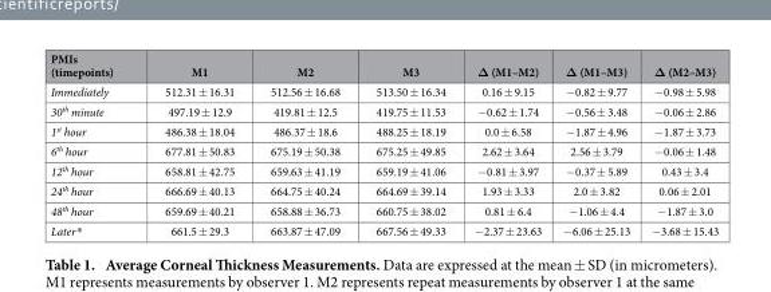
<table><thead><tr><td>PMIs (timepoints)</td><td>M1</td><td>M2</td><td>M3</td><td>Δ (M1–M2)</td><td>Δ (M1–M3)</td><td>Δ (M2–M3)</td></tr></thead><tbody><tr><td>Immediately</td><td>512.31 ± 16.31</td><td>512.56 ± 16.68</td><td>513.50 ± 16.34</td><td>0.16 ± 9.15</td><td>− 0.82 ± 9.77</td><td>− 0.98 ± 5.98</td></tr><tr><td>30<sup>th</sup> minute</td><td>497.19 ± 12.9</td><td>419.81 ± 12.5</td><td>419.75 ± 11.53</td><td>− 0.62 ± 1.74</td><td>− 0.56 ± 3.48</td><td>− 0.06 ± 2.86</td></tr><tr><td>1<sup>st</sup> hour</td><td>486.38 ± 18.04</td><td>486.37 ± 18.6</td><td>488.25 ± 18.19</td><td>0.0 ± 6.58</td><td>− 1.87 ± 4.96</td><td>− 1.87 ± 3.73</td></tr><tr><td>6<sup>th</sup> hour</td><td>677.81 ± 50.83</td><td>675.19 ± 50.38</td><td>675.25 ± 49.85</td><td>2.62 ± 3.64</td><td>2.56 ± 3.79</td><td>− 0.06 ± 1.48</td></tr><tr><td>12<sup>th</sup> hour</td><td>658.81 ± 42.75</td><td>659.63 ± 41.19</td><td>659.19 ± 41.06</td><td>− 0.81 ± 3.97</td><td>− 0.37 ± 5.89</td><td>0.43 ± 3.4</td></tr><tr><td>24<sup>th</sup> hour</td><td>666.69 ± 40.13</td><td>664.75 ± 40.24</td><td>664.69 ± 39.14</td><td>1.93 ± 3.33</td><td>2.0 ± 3.82</td><td>0.06 ± 2.01</td></tr><tr><td>48<sup>th</sup> hour</td><td>659.69 ± 40.21</td><td>658.88 ± 36.73</td><td>660.75 ± 38.02</td><td>0.81 ± 6.4</td><td>− 1.06 ± 4.4</td><td>− 1.87 ± 3.0</td></tr><tr><td>Later*</td><td>661.5 ± 29.3</td><td>663.87 ± 47.09</td><td>667.56 ± 49.33</td><td>− 2.37 ± 23.63</td><td>− 6.06 ± 25.13</td><td>− 3.68 ± 15.43</td></tr></tbody></table>